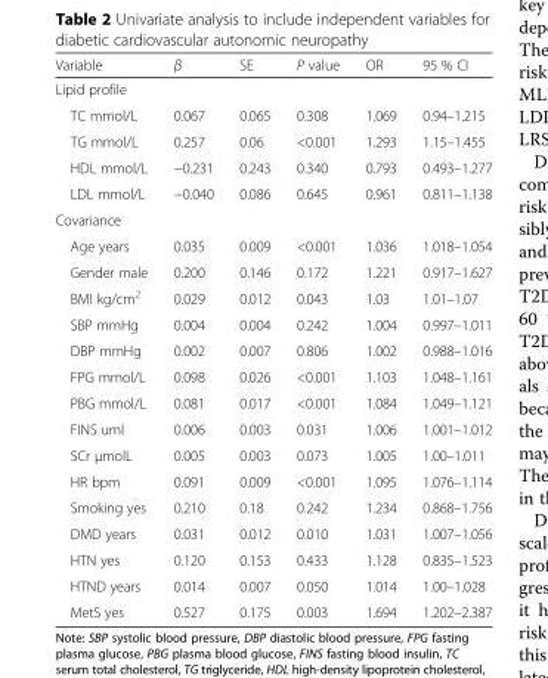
<table><thead><tr><td>Variable</td><td>β</td><td>SE</td><td>P value</td><td>OR</td><td>95 % CI</td></tr></thead><tbody><tr><td colspan="6">Lipid profile</td></tr><tr><td>TC mmol/L</td><td>0.067</td><td>0.065</td><td>0.308</td><td>1.069</td><td>0.94–1.215</td></tr><tr><td>TG mmol/L</td><td>0.257</td><td>0.06</td><td>&lt;0.001</td><td>1.293</td><td>1.15–1.455</td></tr><tr><td>HDL mmol/L</td><td>−0.231</td><td>0.243</td><td>0.340</td><td>0.793</td><td>0.493–1.277</td></tr><tr><td>LDL mmol/L</td><td>−0.040</td><td>0.086</td><td>0.645</td><td>0.961</td><td>0.811–1.138</td></tr><tr><td colspan="6">Covariance</td></tr><tr><td>Age years</td><td>0.035</td><td>0.009</td><td>&lt;0.001</td><td>1.036</td><td>1.018–1.054</td></tr><tr><td>Gender male</td><td>0.200</td><td>0.146</td><td>0.172</td><td>1.221</td><td>0.917–1.627</td></tr><tr><td>BMI kg/cm<sup>2</sup></td><td>0.029</td><td>0.012</td><td>0.043</td><td>1.03</td><td>1.01–1.07</td></tr><tr><td>SBP mmHg</td><td>0.004</td><td>0.004</td><td>0.242</td><td>1.004</td><td>0.997–1.011</td></tr><tr><td>DBP mmHg</td><td>0.002</td><td>0.007</td><td>0.806</td><td>1.002</td><td>0.988–1.016</td></tr><tr><td>FPG mmol/L</td><td>0.098</td><td>0.026</td><td>&lt;0.001</td><td>1.103</td><td>1.048–1.161</td></tr><tr><td>PBG mmol/L</td><td>0.081</td><td>0.017</td><td>&lt;0.001</td><td>1.084</td><td>1.049–1.121</td></tr><tr><td>FINS uml</td><td>0.006</td><td>0.003</td><td>0.031</td><td>1.006</td><td>1.001–1.012</td></tr><tr><td>SCr μmolL</td><td>0.005</td><td>0.003</td><td>0.073</td><td>1.005</td><td>1.00–1.011</td></tr><tr><td>HR bpm</td><td>0.091</td><td>0.009</td><td>&lt;0.001</td><td>1.095</td><td>1.076–1.114</td></tr><tr><td>Smoking yes</td><td>0.210</td><td>0.18</td><td>0.242</td><td>1.234</td><td>0.868–1.756</td></tr><tr><td>DMD years</td><td>0.031</td><td>0.012</td><td>0.010</td><td>1.031</td><td>1.007–1.056</td></tr><tr><td>HTN yes</td><td>0.120</td><td>0.153</td><td>0.433</td><td>1.128</td><td>0.835–1.523</td></tr><tr><td>HTND years</td><td>0.014</td><td>0.007</td><td>0.050</td><td>1.014</td><td>1.00–1.028</td></tr><tr><td>MetS yes</td><td>0.527</td><td>0.175</td><td>0.003</td><td>1.694</td><td>1.202–2.387</td></tr></tbody></table>